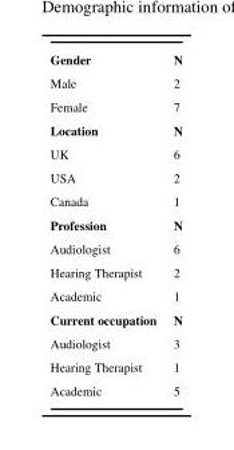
<table><tbody><tr><td>Gender</td><td>N</td></tr><tr><td>Male</td><td>2</td></tr><tr><td>Female</td><td>7</td></tr><tr><td>Location</td><td>N</td></tr><tr><td>UK</td><td>6</td></tr><tr><td>USA</td><td>2</td></tr><tr><td>Canada</td><td>1</td></tr><tr><td>Profession</td><td>N</td></tr><tr><td>Audiologist</td><td>6</td></tr><tr><td>Hearing Therapist</td><td>2</td></tr><tr><td>Academic</td><td>1</td></tr><tr><td>Current occupation</td><td>N</td></tr><tr><td>Audiologist</td><td>3</td></tr><tr><td>Hearing Therapist</td><td>1</td></tr><tr><td>Academic</td><td>5</td></tr></tbody></table>